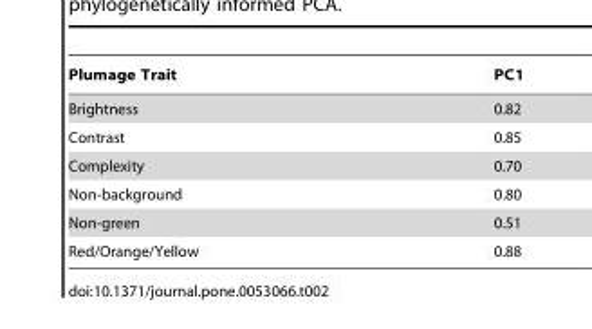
<table><thead><tr><td>Plumage Trait</td><td>PC1</td></tr></thead><tbody><tr><td>Brightness</td><td>0.82</td></tr><tr><td>Contrast</td><td>0.85</td></tr><tr><td>Complexity</td><td>0.70</td></tr><tr><td>Non-background</td><td>0.80</td></tr><tr><td>Non-green</td><td>0.51</td></tr><tr><td>Red/Orange/Yellow</td><td>0.88</td></tr></tbody></table>